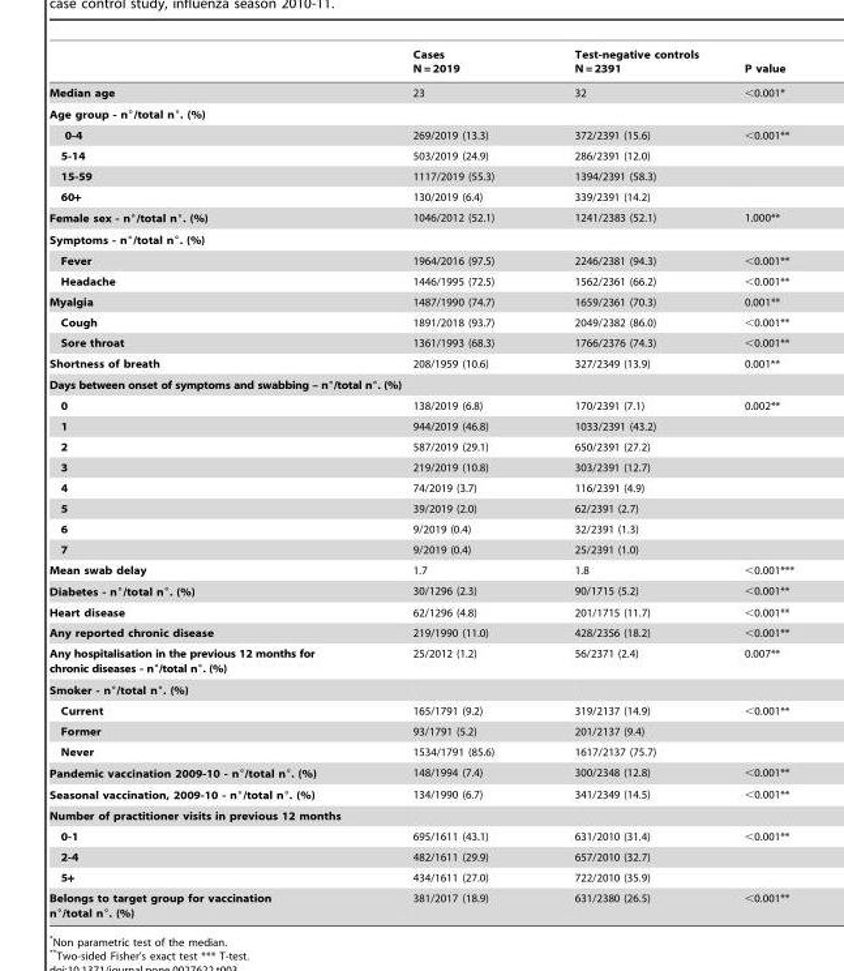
<table><thead><tr><td></td><td>Cases N = 2019</td><td>Test-negative controls N = 2391</td><td>P value</td></tr></thead><tbody><tr><td>Median age</td><td>23</td><td>32</td><td>&lt;0.001*</td></tr><tr><td colspan="4">Age group - n°/total n°. (%)</td></tr><tr><td>0-4</td><td>269/2019 (13.3)</td><td>372/2391 (15.6)</td><td>&lt;0.001**</td></tr><tr><td>5-14</td><td>503/2019 (24.9)</td><td>286/2391 (12.0)</td><td></td></tr><tr><td>15-59</td><td>1117/2019 (55.3)</td><td>1394/2391 (58.3)</td><td></td></tr><tr><td>60+</td><td>130/2019 (6.4)</td><td>339/2391 (14.2)</td><td></td></tr><tr><td>Female sex - n°/total n°. (%)</td><td>1046/2012 (52.1)</td><td>1241/2383 (52.1)</td><td>1.000**</td></tr><tr><td colspan="4">Symptoms - n°/total n°. (%)</td></tr><tr><td>Fever</td><td>1964/2016 (97.5)</td><td>2246/2381 (94.3)</td><td>&lt;0.001**</td></tr><tr><td>Headache</td><td>1446/1995 (72.5)</td><td>1562/2361 (66.2)</td><td>&lt;0.001**</td></tr><tr><td>Myalgia</td><td>1487/1990 (74.7)</td><td>1659/2361 (70.3)</td><td>0.001**</td></tr><tr><td>Cough</td><td>1891/2018 (93.7)</td><td>2049/2382 (86.0)</td><td>&lt;0.001**</td></tr><tr><td>Sore throat</td><td>1361/1993 (68.3)</td><td>1766/2376 (74.3)</td><td>&lt;0.001**</td></tr><tr><td>Shortness of breath</td><td>208/1959 (10.6)</td><td>327/2349 (13.9)</td><td>0.001**</td></tr><tr><td colspan="4">Days between onset of symptoms and swabbing – n°/total n°. (%)</td></tr><tr><td>0</td><td>138/2019 (6.8)</td><td>170/2391 (7.1)</td><td>0.002**</td></tr><tr><td>1</td><td>944/2019 (46.8)</td><td>1033/2391 (43.2)</td><td></td></tr><tr><td>2</td><td>587/2019 (29.1)</td><td>650/2391 (27.2)</td><td></td></tr><tr><td>3</td><td>219/2019 (10.8)</td><td>303/2391 (12.7)</td><td></td></tr><tr><td>4</td><td>74/2019 (3.7)</td><td>116/2391 (4.9)</td><td></td></tr><tr><td>5</td><td>39/2019 (2.0)</td><td>62/2391 (2.7)</td><td></td></tr><tr><td>6</td><td>9/2019 (0.4)</td><td>32/2391 (1.3)</td><td></td></tr><tr><td>7</td><td>9/2019 (0.4)</td><td>25/2391 (1.0)</td><td></td></tr><tr><td>Mean swab delay</td><td>1.7</td><td>1.8</td><td>&lt;0.001***</td></tr><tr><td>Diabetes - n°/total n°. (%)</td><td>30/1296 (2.3)</td><td>90/1715 (5.2)</td><td>&lt;0.001**</td></tr><tr><td>Heart disease</td><td>62/1296 (4.8)</td><td>201/1715 (11.7)</td><td>&lt;0.001**</td></tr><tr><td>Any reported chronic disease</td><td>219/1990 (11.0)</td><td>428/2356 (18.2)</td><td>&lt;0.001**</td></tr><tr><td>Any hospitalisation in the previous 12 months for chronic diseases - n°/total n°. (%)</td><td>25/2012 (1.2)</td><td>56/2371 (2.4)</td><td>0.007**</td></tr><tr><td colspan="4">Smoker - n°/total n°. (%)</td></tr><tr><td>Current</td><td>165/1791 (9.2)</td><td>319/2137 (14.9)</td><td>&lt;0.001**</td></tr><tr><td>Former</td><td>93/1791 (5.2)</td><td>201/2137 (9.4)</td><td></td></tr><tr><td>Never</td><td>1534/1791 (85.6)</td><td>1617/2137 (75.7)</td><td></td></tr><tr><td>Pandemic vaccination 2009-10 - n°/total n°. (%)</td><td>148/1994 (7.4)</td><td>300/2348 (12.8)</td><td>&lt;0.001**</td></tr><tr><td>Seasonal vaccination, 2009-10 - n°/total n°. (%)</td><td>134/1990 (6.7)</td><td>341/2349 (14.5)</td><td>&lt;0.001**</td></tr><tr><td colspan="4">Number of practitioner visits in previous 12 months</td></tr><tr><td>0-1</td><td>695/1611 (43.1)</td><td>631/2010 (31.4)</td><td>&lt;0.001**</td></tr><tr><td>2-4</td><td>482/1611 (29.9)</td><td>657/2010 (32.7)</td><td></td></tr><tr><td>5+</td><td>434/1611 (27.0)</td><td>722/2010 (35.9)</td><td></td></tr><tr><td>Belongs to target group for vaccination n°/total n°. (%)</td><td>381/2017 (18.9)</td><td>631/2380 (26.5)</td><td>&lt;0.001**</td></tr></tbody></table>